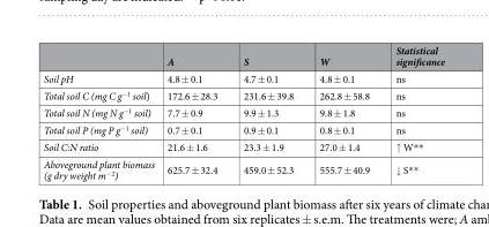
<table><thead><tr><td></td><td>A</td><td>S</td><td>W</td><td>Statistical significance</td></tr></thead><tbody><tr><td>Soil pH</td><td>4.8 ± 0.1</td><td>4.7 ± 0.1</td><td>4.8 ± 0.1</td><td>ns</td></tr><tr><td>Total soil C (mg C g<sup>−1</sup> soil)</td><td>172.6 ± 28.3</td><td>231.6 ± 39.8</td><td>262.8 ± 58.8</td><td>ns</td></tr><tr><td>Total soil N (mg N g<sup>−1</sup> soil)</td><td>7.7 ± 0.9</td><td>9.9 ± 1.3</td><td>9.8 ± 1.8</td><td>ns</td></tr><tr><td>Total soil P (mg P g<sup>−1</sup> soil)</td><td>0.7 ± 0.1</td><td>0.9 ± 0.1</td><td>0.8 ± 0.1</td><td>ns</td></tr><tr><td>Soil C:N ratio</td><td>21.6 ± 1.6</td><td>23.3 ± 1.9</td><td>27.0 ± 1.4</td><td>↑ W**</td></tr><tr><td>Aboveground plant biomass (g dry weight m<sup>−2</sup>)</td><td>625.7 ± 32.4</td><td>459.0 ± 52.3</td><td>555.7 ± 40.9</td><td>↓ S**</td></tr></tbody></table>